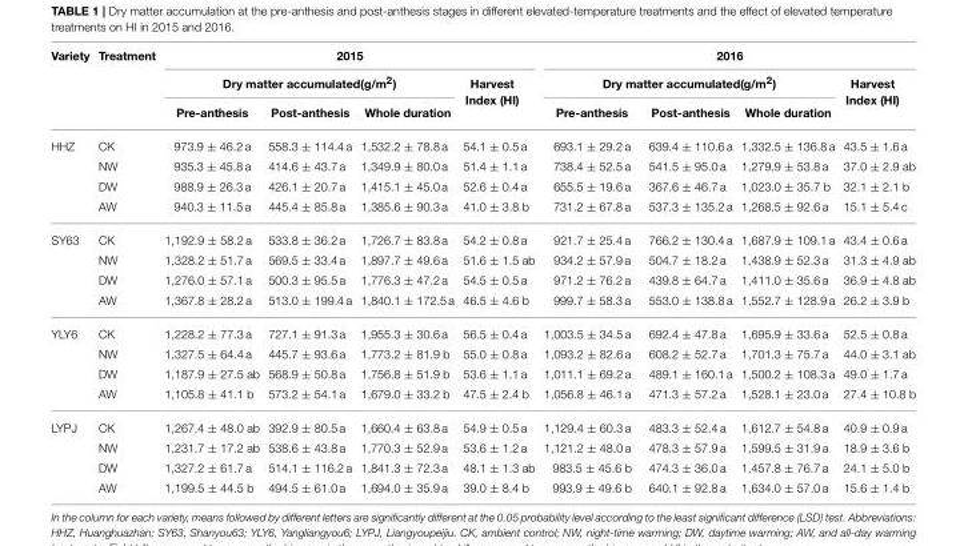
<table><thead><tr><td rowspan="3">Variety</td><td rowspan="3">Treatment</td><td colspan="4">2015</td><td colspan="4">2016</td></tr><tr><td colspan="3">Dry matter accumulated(g/m<sup>2</sup>)</td><td rowspan="2">Harvest Index (HI)</td><td colspan="3">Dry matter accumulated(g/m<sup>2</sup>)</td><td rowspan="2">Harvest Index (HI)</td></tr><tr><td>Pre-anthesis</td><td>Post-anthesis</td><td>Whole duration</td><td>Pre-anthesis</td><td>Post-anthesis</td><td>Whole duration</td></tr></thead><tbody><tr><td rowspan="4">HHZ</td><td>CK</td><td>973.9 ± 46.2 a</td><td>558.3 ± 114.4 a</td><td>1,532.2 ± 78.8 a</td><td>54.1 ± 0.5 a</td><td>693.1 ± 29.2 a</td><td>639.4 ± 110.6 a</td><td>1,332.5 ± 136.8 a</td><td>43.5 ± 1.6 a</td></tr><tr><td>NW</td><td>935.3 ± 45.8 a</td><td>414.6 ± 43.7 a</td><td>1,349.9 ± 80.0 a</td><td>51.4 ± 1.1 a</td><td>738.4 ± 52.5 a</td><td>541.5 ± 95.0 a</td><td>1,279.9 ± 53.8 a</td><td>37.0 ± 2.9 ab</td></tr><tr><td>DW</td><td>988.9 ± 26.3 a</td><td>426.1 ± 20.7 a</td><td>1,415.1 ± 45.0 a</td><td>52.6 ± 0.4 a</td><td>655.5 ± 19.6 a</td><td>367.6 ± 46.7 a</td><td>1,023.0 ± 35.7 b</td><td>32.1 ± 2.1 b</td></tr><tr><td>AW</td><td>940.3 ± 11.5 a</td><td>445.4 ± 85.8 a</td><td>1,385.6 ± 90.3 a</td><td>41.0 ± 3.8 b</td><td>731.2 ± 67.8 a</td><td>537.3 ± 135.2 a</td><td>1,268.5 ± 92.6 a</td><td>15.1 ± 5.4 c</td></tr><tr><td rowspan="4">SY63</td><td>CK</td><td>1,192.9 ± 58.2 a</td><td>533.8 ± 36.2 a</td><td>1,726.7 ± 83.8 a</td><td>54.2 ± 0.8 a</td><td>921.7 ± 25.4 a</td><td>766.2 ± 130.4 a</td><td>1,687.9 ± 109.1 a</td><td>43.4 ± 0.6 a</td></tr><tr><td>NW</td><td>1,328.2 ± 51.7 a</td><td>569.5 ± 33.4 a</td><td>1,897.7 ± 49.6 a</td><td>51.6 ± 1.5 ab</td><td>934.2 ± 57.9 a</td><td>504.7 ± 18.2 a</td><td>1,438.9 ± 52.3 a</td><td>31.3 ± 4.9 ab</td></tr><tr><td>DW</td><td>1,276.0 ± 57.1 a</td><td>500.3 ± 95.5 a</td><td>1,776.3 ± 47.2 a</td><td>54.5 ± 0.5 a</td><td>971.2 ± 76.2 a</td><td>439.8 ± 64.7 a</td><td>1,411.0 ± 35.6 a</td><td>36.9 ± 4.8 ab</td></tr><tr><td>AW</td><td>1,367.8 ± 28.2 a</td><td>513.0 ± 199.4 a</td><td>1,840.1 ± 172.5 a</td><td>46.5 ± 4.6 b</td><td>999.7 ± 58.3 a</td><td>553.0 ± 138.8 a</td><td>1,552.7 ± 128.9 a</td><td>26.2 ± 3.9 b</td></tr><tr><td rowspan="4">YLY6</td><td>CK</td><td>1,228.2 ± 77.3 a</td><td>727.1 ± 91.3 a</td><td>1,955.3 ± 30.6 a</td><td>56.5 ± 0.4 a</td><td>1,003.5 ± 34.5 a</td><td>692.4 ± 47.8 a</td><td>1,695.9 ± 33.6 a</td><td>52.5 ± 0.8 a</td></tr><tr><td>NW</td><td>1,327.5 ± 64.4 a</td><td>445.7 ± 93.6 a</td><td>1,773.2 ± 81.9 b</td><td>55.0 ± 0.8 a</td><td>1,093.2 ± 82.6 a</td><td>608.2 ± 52.7 a</td><td>1,701.3 ± 75.7 a</td><td>44.0 ± 3.1 ab</td></tr><tr><td>DW</td><td>1,187.9 ± 27.5 ab</td><td>568.9 ± 50.8 a</td><td>1,756.8 ± 51.9 b</td><td>53.6 ± 1.1 a</td><td>1,011.1 ± 69.2 a</td><td>489.1 ± 160.1 a</td><td>1,500.2 ± 108.3 a</td><td>49.0 ± 1.7 a</td></tr><tr><td>AW</td><td>1,105.8 ± 41.1 b</td><td>573.2 ± 54.1 a</td><td>1,679.0 ± 33.2 b</td><td>47.5 ± 2.4 b</td><td>1,056.8 ± 46.1 a</td><td>471.3 ± 57.2 a</td><td>1,528.1 ± 23.0 a</td><td>27.4 ± 10.8 b</td></tr><tr><td rowspan="4">LYPJ</td><td>CK</td><td>1,267.4 ± 48.0 ab</td><td>392.9 ± 80.5 a</td><td>1,660.4 ± 63.8 a</td><td>54.9 ± 0.5 a</td><td>1,129.4 ± 60.3 a</td><td>483.3 ± 52.4 a</td><td>1,612.7 ± 54.8 a</td><td>40.9 ± 0.9 a</td></tr><tr><td>NW</td><td>1,231.7 ± 17.2 ab</td><td>538.6 ± 43.8 a</td><td>1,770.3 ± 52.9 a</td><td>53.6 ± 1.2 a</td><td>1,121.2 ± 48.0 a</td><td>478.3 ± 57.9 a</td><td>1,599.5 ± 31.9 a</td><td>18.9 ± 3.6 b</td></tr><tr><td>DW</td><td>1,327.2 ± 61.7 a</td><td>514.1 ± 116.2 a</td><td>1,841.3 ± 72.3 a</td><td>48.1 ± 1.3 ab</td><td>983.5 ± 45.6 b</td><td>474.3 ± 36.0 a</td><td>1,457.8 ± 76.7 a</td><td>24.1 ± 5.0 b</td></tr><tr><td>AW</td><td>1,199.5 ± 44.5 b</td><td>494.5 ± 61.0 a</td><td>1,694.0 ± 35.9 a</td><td>39.0 ± 8.4 b</td><td>993.9 ± 49.6 b</td><td>640.1 ± 92.8 a</td><td>1,634.0 ± 57.0 a</td><td>15.6 ± 1.4 b</td></tr></tbody></table>